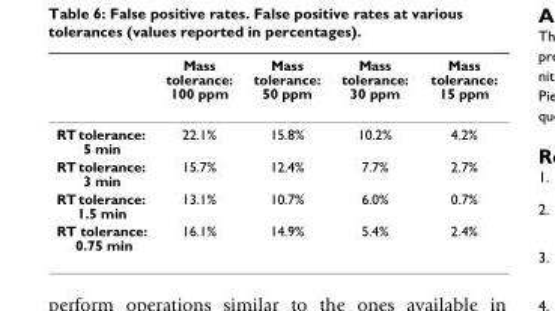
<table><thead><tr><td></td><td>Mass tolerance: 100 ppm</td><td>Mass tolerance: 50 ppm</td><td>Mass tolerance: 30 ppm</td><td>Mass tolerance: 15 ppm</td></tr></thead><tbody><tr><td>RT tolerance: 5 min</td><td>22.1%</td><td>15.8%</td><td>10.2%</td><td>4.2%</td></tr><tr><td>RT tolerance: 3 min</td><td>15.7%</td><td>12.4%</td><td>7.7%</td><td>2.7%</td></tr><tr><td>RT tolerance: 1.5 min</td><td>13.1%</td><td>10.7%</td><td>6.0%</td><td>0.7%</td></tr><tr><td>RT tolerance: 0.75 min</td><td>16.1%</td><td>14.9%</td><td>5.4%</td><td>2.4%</td></tr></tbody></table>